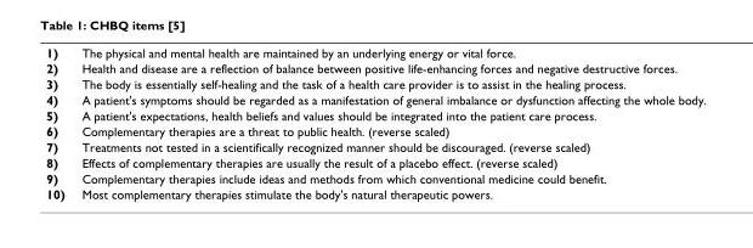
<table><tbody><tr><td>1)</td><td>The physical and mental health are maintained by an underlying energy or vital force.</td></tr><tr><td>2)</td><td>Health and disease are a reflection of balance between positive life-enhancing forces and negative destructive forces.</td></tr><tr><td>3)</td><td>The body is essentially self-healing and the task of a health care provider is to assist in the healing process.</td></tr><tr><td>4)</td><td>A patient&#x27;s symptoms should be regarded as a manifestation of general imbalance or dysfunction affecting the whole body.</td></tr><tr><td>5)</td><td>A patient&#x27;s expectations, health beliefs and values should be integrated into the patient care process.</td></tr><tr><td>6)</td><td>Complementary therapies are a threat to public health. (reverse scaled)</td></tr><tr><td>7)</td><td>Treatments not tested in a scientifically recognized manner should be discouraged. (reverse scaled)</td></tr><tr><td>8)</td><td>Effects of complementary therapies are usually the result of a placebo effect. (reverse scaled)</td></tr><tr><td>9)</td><td>Complementary therapies include ideas and methods from which conventional medicine could benefit.</td></tr><tr><td>10)</td><td>Most complementary therapies stimulate the body&#x27;s natural therapeutic powers.</td></tr></tbody></table>